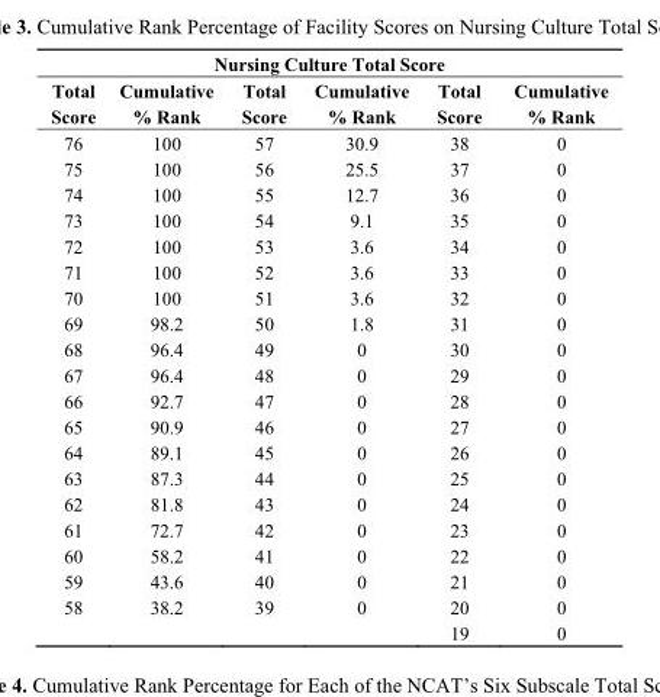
<table><thead><tr><td colspan="6">Nursing Culture Total Score</td></tr><tr><td>Total Score</td><td>Cumulative % Rank</td><td>Total Score</td><td>Cumulative % Rank</td><td>Total Score</td><td>Cumulative % Rank</td></tr></thead><tbody><tr><td>76</td><td>100</td><td>57</td><td>30.9</td><td>38</td><td>0</td></tr><tr><td>75</td><td>100</td><td>56</td><td>25.5</td><td>37</td><td>0</td></tr><tr><td>74</td><td>100</td><td>55</td><td>12.7</td><td>36</td><td>0</td></tr><tr><td>73</td><td>100</td><td>54</td><td>9.1</td><td>35</td><td>0</td></tr><tr><td>72</td><td>100</td><td>53</td><td>3.6</td><td>34</td><td>0</td></tr><tr><td>71</td><td>100</td><td>52</td><td>3.6</td><td>33</td><td>0</td></tr><tr><td>70</td><td>100</td><td>51</td><td>3.6</td><td>32</td><td>0</td></tr><tr><td>69</td><td>98.2</td><td>50</td><td>1.8</td><td>31</td><td>0</td></tr><tr><td>68</td><td>96.4</td><td>49</td><td>0</td><td>30</td><td>0</td></tr><tr><td>67</td><td>96.4</td><td>48</td><td>0</td><td>29</td><td>0</td></tr><tr><td>66</td><td>92.7</td><td>47</td><td>0</td><td>28</td><td>0</td></tr><tr><td>65</td><td>90.9</td><td>46</td><td>0</td><td>27</td><td>0</td></tr><tr><td>64</td><td>89.1</td><td>45</td><td>0</td><td>26</td><td>0</td></tr><tr><td>63</td><td>87.3</td><td>44</td><td>0</td><td>25</td><td>0</td></tr><tr><td>62</td><td>81.8</td><td>43</td><td>0</td><td>24</td><td>0</td></tr><tr><td>61</td><td>72.7</td><td>42</td><td>0</td><td>23</td><td>0</td></tr><tr><td>60</td><td>58.2</td><td>41</td><td>0</td><td>22</td><td>0</td></tr><tr><td>59</td><td>43.6</td><td>40</td><td>0</td><td>21</td><td>0</td></tr><tr><td rowspan="2">58</td><td>38.2</td><td>39</td><td>0</td><td>20</td><td>0</td></tr><tr><td></td><td></td><td></td><td>19</td><td>0</td></tr></tbody></table>